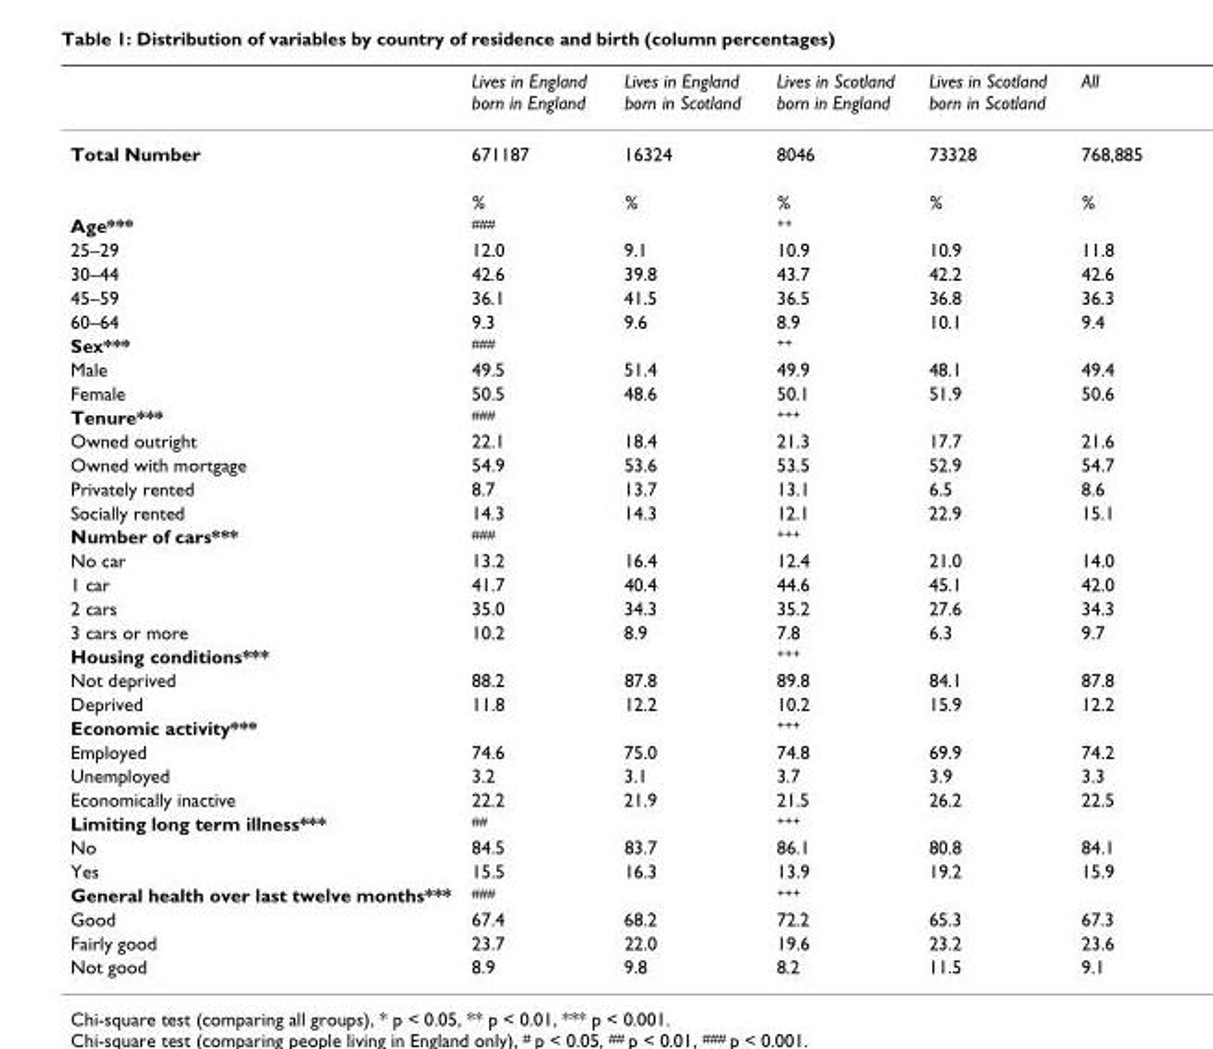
<table><thead><tr><td></td><td>Lives in England born in England</td><td>Lives in England born in Scotland</td><td>Lives in Scotland born in England</td><td>Lives in Scotland born in Scotland</td><td>All</td></tr></thead><tbody><tr><td rowspan="2">Total Number</td><td>671187</td><td>16324</td><td>8046</td><td>73328</td><td>768,885</td></tr><tr><td>%</td><td>%</td><td>%</td><td>%</td><td>%</td></tr><tr><td>Age***</td><td>###</td><td></td><td>++</td><td></td><td></td></tr><tr><td>25–29</td><td>12.0</td><td>9.1</td><td>10.9</td><td>10.9</td><td>11.8</td></tr><tr><td>30–44</td><td>42.6</td><td>39.8</td><td>43.7</td><td>42.2</td><td>42.6</td></tr><tr><td>45–59</td><td>36.1</td><td>41.5</td><td>36.5</td><td>36.8</td><td>36.3</td></tr><tr><td>60–64</td><td>9.3</td><td>9.6</td><td>8.9</td><td>10.1</td><td>9.4</td></tr><tr><td>Sex***</td><td>###</td><td></td><td>++</td><td></td><td></td></tr><tr><td>Male</td><td>49.5</td><td>51.4</td><td>49.9</td><td>48.1</td><td>49.4</td></tr><tr><td>Female</td><td>50.5</td><td>48.6</td><td>50.1</td><td>51.9</td><td>50.6</td></tr><tr><td>Tenure***</td><td>###</td><td></td><td>+++</td><td></td><td></td></tr><tr><td>Owned outright</td><td>22.1</td><td>18.4</td><td>21.3</td><td>17.7</td><td>21.6</td></tr><tr><td>Owned with mortgage</td><td>54.9</td><td>53.6</td><td>53.5</td><td>52.9</td><td>54.7</td></tr><tr><td>Privately rented</td><td>8.7</td><td>13.7</td><td>13.1</td><td>6.5</td><td>8.6</td></tr><tr><td>Socially rented</td><td>14.3</td><td>14.3</td><td>12.1</td><td>22.9</td><td>15.1</td></tr><tr><td>Number of cars***</td><td>###</td><td></td><td>+++</td><td></td><td></td></tr><tr><td>No car</td><td>13.2</td><td>16.4</td><td>12.4</td><td>21.0</td><td>14.0</td></tr><tr><td>1 car</td><td>41.7</td><td>40.4</td><td>44.6</td><td>45.1</td><td>42.0</td></tr><tr><td>2 cars</td><td>35.0</td><td>34.3</td><td>35.2</td><td>27.6</td><td>34.3</td></tr><tr><td>3 cars or more</td><td>10.2</td><td>8.9</td><td>7.8</td><td>6.3</td><td>9.7</td></tr><tr><td>Housing conditions***</td><td></td><td></td><td>+++</td><td></td><td></td></tr><tr><td>Not deprived</td><td>88.2</td><td>87.8</td><td>89.8</td><td>84.1</td><td>87.8</td></tr><tr><td>Deprived</td><td>11.8</td><td>12.2</td><td>10.2</td><td>15.9</td><td>12.2</td></tr><tr><td>Economic activity***</td><td></td><td></td><td>+++</td><td></td><td></td></tr><tr><td>Employed</td><td>74.6</td><td>75.0</td><td>74.8</td><td>69.9</td><td>74.2</td></tr><tr><td>Unemployed</td><td>3.2</td><td>3.1</td><td>3.7</td><td>3.9</td><td>3.3</td></tr><tr><td>Economically inactive</td><td>22.2</td><td>21.9</td><td>21.5</td><td>26.2</td><td>22.5</td></tr><tr><td>Limiting long term illness***</td><td>##</td><td></td><td>+++</td><td></td><td></td></tr><tr><td>No</td><td>84.5</td><td>83.7</td><td>86.1</td><td>80.8</td><td>84.1</td></tr><tr><td>Yes</td><td>15.5</td><td>16.3</td><td>13.9</td><td>19.2</td><td>15.9</td></tr><tr><td>General health over last twelve months***</td><td>###</td><td></td><td>+++</td><td></td><td></td></tr><tr><td>Good</td><td>67.4</td><td>68.2</td><td>72.2</td><td>65.3</td><td>67.3</td></tr><tr><td>Fairly good</td><td>23.7</td><td>22.0</td><td>19.6</td><td>23.2</td><td>23.6</td></tr><tr><td>Not good</td><td>8.9</td><td>9.8</td><td>8.2</td><td>11.5</td><td>9.1</td></tr></tbody></table>